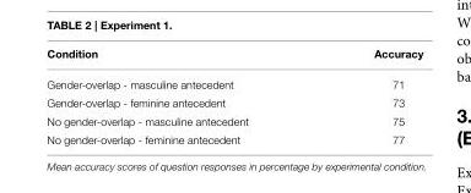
<table><thead><tr><td>Condition</td><td>Accuracy</td></tr></thead><tbody><tr><td>Gender-overlap - masculine antecedent</td><td>71</td></tr><tr><td>Gender-overlap - feminine antecedent</td><td>73</td></tr><tr><td>No gender-overlap - masculine antecedent</td><td>75</td></tr><tr><td>No gender-overlap - feminine antecedent</td><td>77</td></tr></tbody></table>